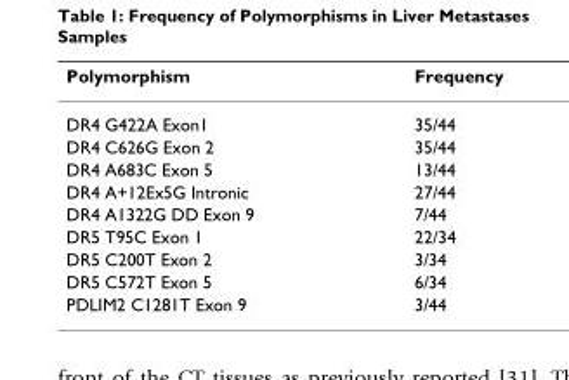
<table><thead><tr><td>Polymorphism</td><td>Frequency</td></tr></thead><tbody><tr><td>DR4 G422A Exon1</td><td>35/44</td></tr><tr><td>DR4 C626G Exon 2</td><td>35/44</td></tr><tr><td>DR4 A683C Exon 5</td><td>13/44</td></tr><tr><td>DR4 A+12Ex5G Intronic</td><td>27/44</td></tr><tr><td>DR4 A1322G DD Exon 9</td><td>7/44</td></tr><tr><td>DR5 T95C Exon 1</td><td>22/34</td></tr><tr><td>DR5 C200T Exon 2</td><td>3/34</td></tr><tr><td>DR5 C572T Exon 5</td><td>6/34</td></tr><tr><td>PDLIM2 C1281T Exon 9</td><td>3/44</td></tr></tbody></table>